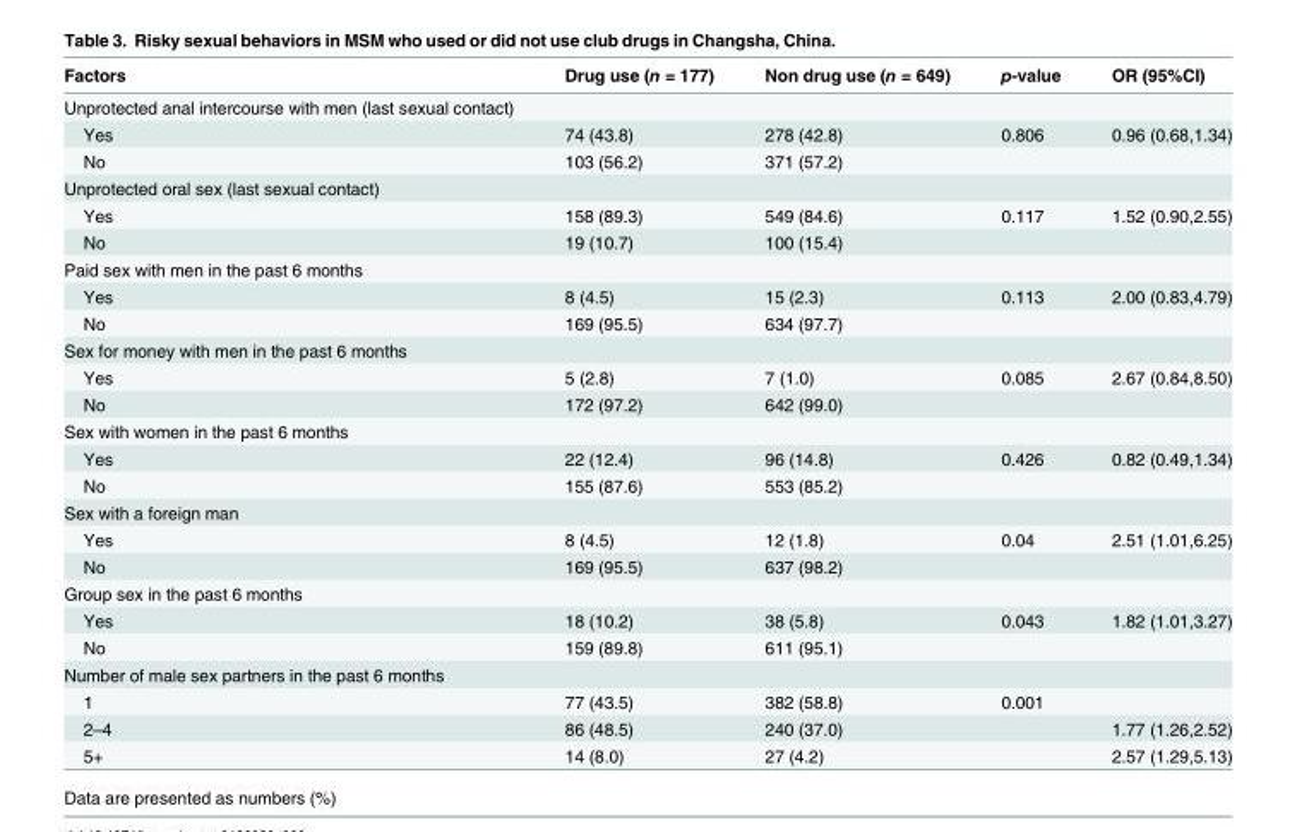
<table><thead><tr><td>Factors</td><td>Drug use (n = 177)</td><td>Non drug use (n = 649)</td><td>p-value</td><td>OR (95%CI)</td></tr></thead><tbody><tr><td colspan="5">Unprotected anal intercourse with men (last sexual contact)</td></tr><tr><td>Yes</td><td>74 (43.8)</td><td>278 (42.8)</td><td>0.806</td><td>0.96 (0.68,1.34)</td></tr><tr><td>No</td><td>103 (56.2)</td><td>371 (57.2)</td><td></td><td></td></tr><tr><td colspan="5">Unprotected oral sex (last sexual contact)</td></tr><tr><td>Yes</td><td>158 (89.3)</td><td>549 (84.6)</td><td>0.117</td><td>1.52 (0.90,2.55)</td></tr><tr><td>No</td><td>19 (10.7)</td><td>100 (15.4)</td><td></td><td></td></tr><tr><td colspan="5">Paid sex with men in the past 6 months</td></tr><tr><td>Yes</td><td>8 (4.5)</td><td>15 (2.3)</td><td>0.113</td><td>2.00 (0.83,4.79)</td></tr><tr><td>No</td><td>169 (95.5)</td><td>634 (97.7)</td><td></td><td></td></tr><tr><td colspan="5">Sex for money with men in the past 6 months</td></tr><tr><td>Yes</td><td>5 (2.8)</td><td>7 (1.0)</td><td>0.085</td><td>2.67 (0.84,8.50)</td></tr><tr><td>No</td><td>172 (97.2)</td><td>642 (99.0)</td><td></td><td></td></tr><tr><td colspan="5">Sex with women in the past 6 months</td></tr><tr><td>Yes</td><td>22 (12.4)</td><td>96 (14.8)</td><td>0.426</td><td>0.82 (0.49,1.34)</td></tr><tr><td>No</td><td>155 (87.6)</td><td>553 (85.2)</td><td></td><td></td></tr><tr><td colspan="5">Sex with a foreign man</td></tr><tr><td>Yes</td><td>8 (4.5)</td><td>12 (1.8)</td><td>0.04</td><td>2.51 (1.01,6.25)</td></tr><tr><td>No</td><td>169 (95.5)</td><td>637 (98.2)</td><td></td><td></td></tr><tr><td colspan="5">Group sex in the past 6 months</td></tr><tr><td>Yes</td><td>18 (10.2)</td><td>38 (5.8)</td><td>0.043</td><td>1.82 (1.01,3.27)</td></tr><tr><td>No</td><td>159 (89.8)</td><td>611 (95.1)</td><td></td><td></td></tr><tr><td colspan="5">Number of male sex partners in the past 6 months</td></tr><tr><td>1</td><td>77 (43.5)</td><td>382 (58.8)</td><td>0.001</td><td></td></tr><tr><td>2–4</td><td>86 (48.5)</td><td>240 (37.0)</td><td></td><td>1.77 (1.26,2.52)</td></tr><tr><td>5+</td><td>14 (8.0)</td><td>27 (4.2)</td><td></td><td>2.57 (1.29,5.13)</td></tr></tbody></table>